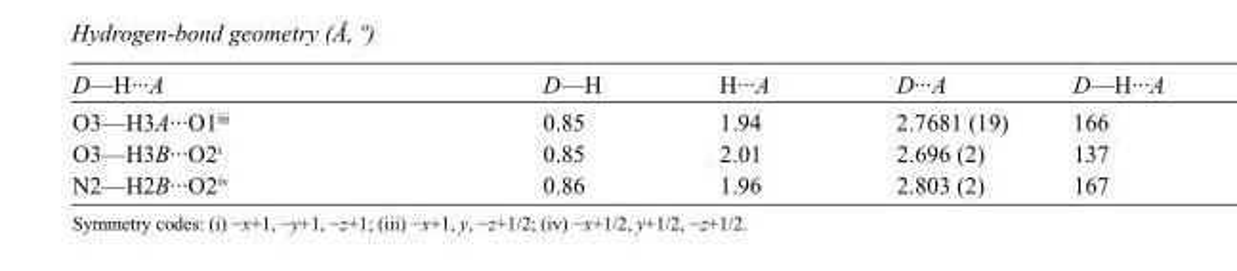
<table><tbody><tr><td>D—H···A</td><td>D—H</td><td>H···A</td><td>D···A</td><td>D—H···A</td></tr><tr><td>O3—H3A···O1<sup>iii</sup></td><td>0.85</td><td>1.94</td><td>2.7681 (19)</td><td>166</td></tr><tr><td>O3—H3B···O2<sup>i</sup></td><td>0.85</td><td>2.01</td><td>2.696 (2)</td><td>137</td></tr><tr><td>N2—H2B···O2<sup>iv</sup></td><td>0.86</td><td>1.96</td><td>2.803 (2)</td><td>167</td></tr></tbody></table>